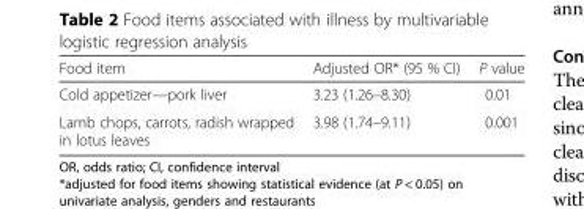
<table><thead><tr><td>Food item</td><td>Adjusted OR* (95 % CI)</td><td>P value</td></tr></thead><tbody><tr><td>Cold appetizer—pork liver</td><td>3.23 (1.26–8.30)</td><td>0.01</td></tr><tr><td>Lamb chops, carrots, radish wrapped in lotus leaves</td><td>3.98 (1.74–9.11)</td><td>0.001</td></tr></tbody></table>